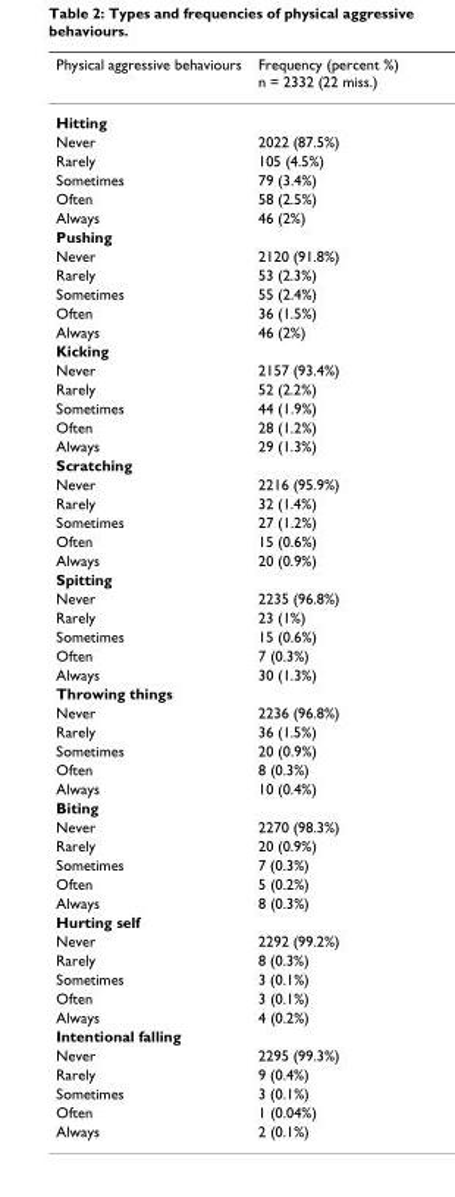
<table><thead><tr><td>Physical aggressive behaviours</td><td>Frequency (percent %) n = 2332 (22 miss.)</td></tr></thead><tbody><tr><td colspan="2">Hitting</td></tr><tr><td>Never</td><td>2022 (87.5%)</td></tr><tr><td>Rarely</td><td>105 (4.5%)</td></tr><tr><td>Sometimes</td><td>79 (3.4%)</td></tr><tr><td>Often</td><td>58 (2.5%)</td></tr><tr><td>Always</td><td>46 (2%)</td></tr><tr><td colspan="2">Pushing</td></tr><tr><td>Never</td><td>2120 (91.8%)</td></tr><tr><td>Rarely</td><td>53 (2.3%)</td></tr><tr><td>Sometimes</td><td>55 (2.4%)</td></tr><tr><td>Often</td><td>36 (1.5%)</td></tr><tr><td>Always</td><td>46 (2%)</td></tr><tr><td colspan="2">Kicking</td></tr><tr><td>Never</td><td>2157 (93.4%)</td></tr><tr><td>Rarely</td><td>52 (2.2%)</td></tr><tr><td>Sometimes</td><td>44 (1.9%)</td></tr><tr><td>Often</td><td>28 (1.2%)</td></tr><tr><td>Always</td><td>29 (1.3%)</td></tr><tr><td colspan="2">Scratching</td></tr><tr><td>Never</td><td>2216 (95.9%)</td></tr><tr><td>Rarely</td><td>32 (1.4%)</td></tr><tr><td>Sometimes</td><td>27 (1.2%)</td></tr><tr><td>Often</td><td>15 (0.6%)</td></tr><tr><td>Always</td><td>20 (0.9%)</td></tr><tr><td colspan="2">Spitting</td></tr><tr><td>Never</td><td>2235 (96.8%)</td></tr><tr><td>Rarely</td><td>23 (1%)</td></tr><tr><td>Sometimes</td><td>15 (0.6%)</td></tr><tr><td>Often</td><td>7 (0.3%)</td></tr><tr><td>Always</td><td>30 (1.3%)</td></tr><tr><td colspan="2">Throwing things</td></tr><tr><td>Never</td><td>2236 (96.8%)</td></tr><tr><td>Rarely</td><td>36 (1.5%)</td></tr><tr><td>Sometimes</td><td>20 (0.9%)</td></tr><tr><td>Often</td><td>8 (0.3%)</td></tr><tr><td>Always</td><td>10 (0.4%)</td></tr><tr><td colspan="2">Biting</td></tr><tr><td>Never</td><td>2270 (98.3%)</td></tr><tr><td>Rarely</td><td>20 (0.9%)</td></tr><tr><td>Sometimes</td><td>7 (0.3%)</td></tr><tr><td>Often</td><td>5 (0.2%)</td></tr><tr><td>Always</td><td>8 (0.3%)</td></tr><tr><td colspan="2">Hurting self</td></tr><tr><td>Never</td><td>2292 (99.2%)</td></tr><tr><td>Rarely</td><td>8 (0.3%)</td></tr><tr><td>Sometimes</td><td>3 (0.1%)</td></tr><tr><td>Often</td><td>3 (0.1%)</td></tr><tr><td>Always</td><td>4 (0.2%)</td></tr><tr><td colspan="2">Intentional falling</td></tr><tr><td>Never</td><td>2295 (99.3%)</td></tr><tr><td>Rarely</td><td>9 (0.4%)</td></tr><tr><td>Sometimes</td><td>3 (0.1%)</td></tr><tr><td>Often</td><td>1 (0.04%)</td></tr><tr><td>Always</td><td>2 (0.1%)</td></tr></tbody></table>